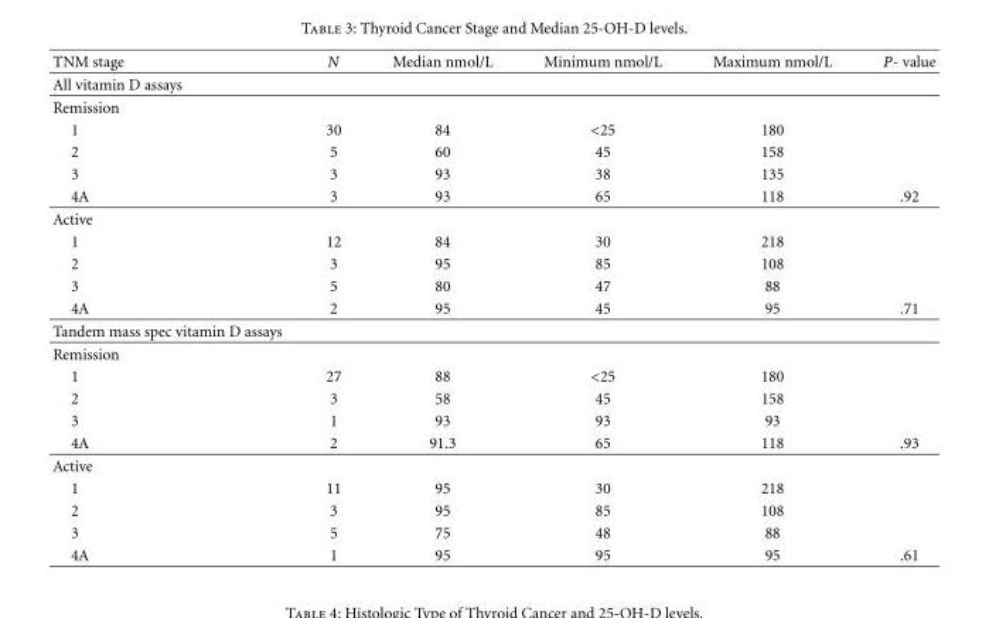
<table><thead><tr><td>TNM stage</td><td>N</td><td>Median nmol/L</td><td>Minimum nmol/L</td><td>Maximum nmol/L</td><td>P- value</td></tr></thead><tbody><tr><td colspan="6">All vitamin D assays</td></tr><tr><td colspan="6">Remission</td></tr><tr><td>1</td><td>30</td><td>84</td><td>&lt;25</td><td>180</td><td></td></tr><tr><td>2</td><td>5</td><td>60</td><td>45</td><td>158</td><td></td></tr><tr><td>3</td><td>3</td><td>93</td><td>38</td><td>135</td><td></td></tr><tr><td>4A</td><td>3</td><td>93</td><td>65</td><td>118</td><td>.92</td></tr><tr><td colspan="6">Active</td></tr><tr><td>1</td><td>12</td><td>84</td><td>30</td><td>218</td><td></td></tr><tr><td>2</td><td>3</td><td>95</td><td>85</td><td>108</td><td></td></tr><tr><td>3</td><td>5</td><td>80</td><td>47</td><td>88</td><td></td></tr><tr><td>4A</td><td>2</td><td>95</td><td>45</td><td>95</td><td>.71</td></tr><tr><td colspan="6">Tandem mass spec vitamin D assays</td></tr><tr><td colspan="6">Remission</td></tr><tr><td>1</td><td>27</td><td>88</td><td>&lt;25</td><td>180</td><td></td></tr><tr><td>2</td><td>3</td><td>58</td><td>45</td><td>158</td><td></td></tr><tr><td>3</td><td>1</td><td>93</td><td>93</td><td>93</td><td></td></tr><tr><td>4A</td><td>2</td><td>91.3</td><td>65</td><td>118</td><td>.93</td></tr><tr><td colspan="6">Active</td></tr><tr><td>1</td><td>11</td><td>95</td><td>30</td><td>218</td><td></td></tr><tr><td>2</td><td>3</td><td>95</td><td>85</td><td>108</td><td></td></tr><tr><td>3</td><td>5</td><td>75</td><td>48</td><td>88</td><td></td></tr><tr><td>4A</td><td>1</td><td>95</td><td>95</td><td>95</td><td>.61</td></tr></tbody></table>